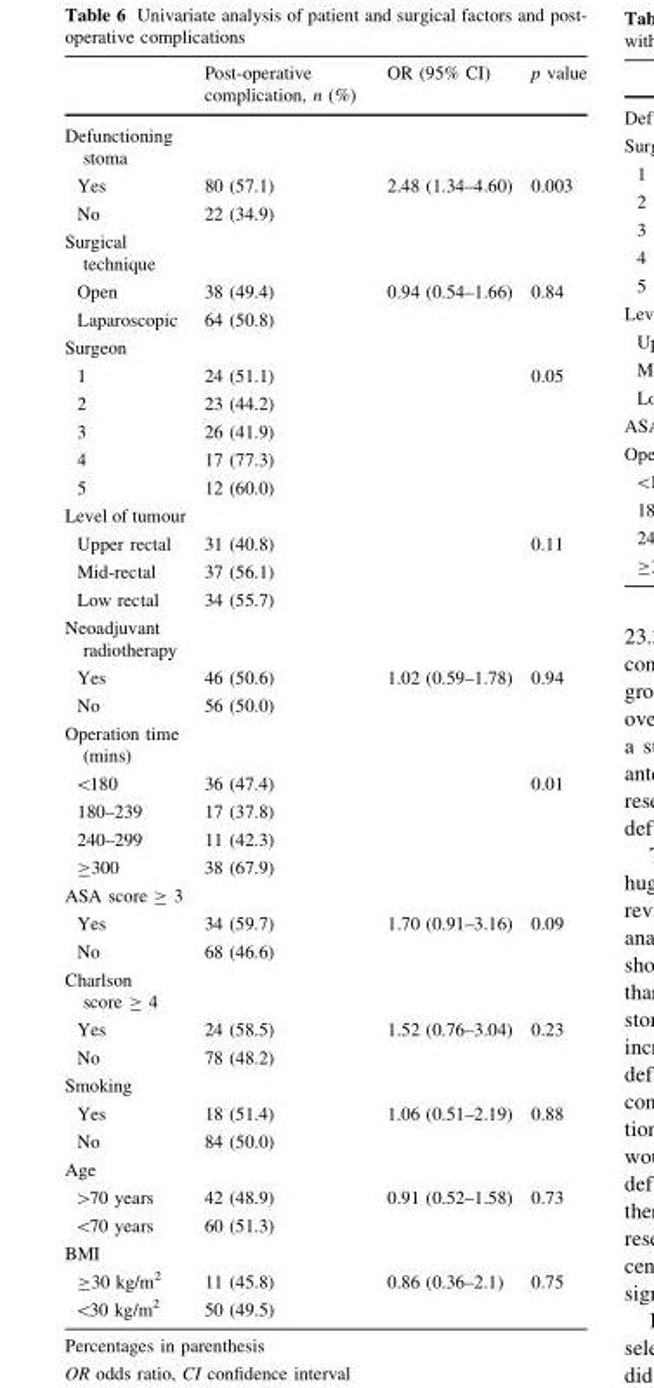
<table><thead><tr><td></td><td>Post-operative complication, n (%)</td><td>OR (95% CI)</td><td>p value</td></tr></thead><tbody><tr><td colspan="4">Defunctioning stoma</td></tr><tr><td>Yes</td><td>80 (57.1)</td><td>2.48 (1.34–4.60)</td><td>0.003</td></tr><tr><td>No</td><td>22 (34.9)</td><td></td><td></td></tr><tr><td colspan="4">Surgical technique</td></tr><tr><td>Open</td><td>38 (49.4)</td><td>0.94 (0.54–1.66)</td><td>0.84</td></tr><tr><td>Laparoscopic</td><td>64 (50.8)</td><td></td><td></td></tr><tr><td colspan="4">Surgeon</td></tr><tr><td>1</td><td>24 (51.1)</td><td></td><td>0.05</td></tr><tr><td>2</td><td>23 (44.2)</td><td></td><td></td></tr><tr><td>3</td><td>26 (41.9)</td><td></td><td></td></tr><tr><td>4</td><td>17 (77.3)</td><td></td><td></td></tr><tr><td>5</td><td>12 (60.0)</td><td></td><td></td></tr><tr><td colspan="4">Level of tumour</td></tr><tr><td>Upper rectal</td><td>31 (40.8)</td><td></td><td>0.11</td></tr><tr><td>Mid-rectal</td><td>37 (56.1)</td><td></td><td></td></tr><tr><td>Low rectal</td><td>34 (55.7)</td><td></td><td></td></tr><tr><td colspan="4">Neoadjuvant radiotherapy</td></tr><tr><td>Yes</td><td>46 (50.6)</td><td>1.02 (0.59–1.78)</td><td>0.94</td></tr><tr><td>No</td><td>56 (50.0)</td><td></td><td></td></tr><tr><td colspan="4">Operation time (mins)</td></tr><tr><td>&lt;180</td><td>36 (47.4)</td><td></td><td>0.01</td></tr><tr><td>180–239</td><td>17 (37.8)</td><td></td><td></td></tr><tr><td>240–299</td><td>11 (42.3)</td><td></td><td></td></tr><tr><td>≥300</td><td>38 (67.9)</td><td></td><td></td></tr><tr><td colspan="4">ASA score ≥ 3</td></tr><tr><td>Yes</td><td>34 (59.7)</td><td>1.70 (0.91–3.16)</td><td>0.09</td></tr><tr><td>No</td><td>68 (46.6)</td><td></td><td></td></tr><tr><td colspan="4">Charlson score ≥ 4</td></tr><tr><td>Yes</td><td>24 (58.5)</td><td>1.52 (0.76–3.04)</td><td>0.23</td></tr><tr><td>No</td><td>78 (48.2)</td><td></td><td></td></tr><tr><td colspan="4">Smoking</td></tr><tr><td>Yes</td><td>18 (51.4)</td><td>1.06 (0.51–2.19)</td><td>0.88</td></tr><tr><td>No</td><td>84 (50.0)</td><td></td><td></td></tr><tr><td colspan="4">Age</td></tr><tr><td>&gt;70 years</td><td>42 (48.9)</td><td>0.91 (0.52–1.58)</td><td>0.73</td></tr><tr><td>&lt;70 years</td><td>60 (51.3)</td><td></td><td></td></tr><tr><td colspan="4">BMI</td></tr><tr><td>≥30 kg/m<sup>2</sup></td><td>11 (45.8)</td><td>0.86 (0.36–2.1)</td><td>0.75</td></tr><tr><td>&lt;30 kg/m<sup>2</sup></td><td>50 (49.5)</td><td></td><td></td></tr></tbody></table>